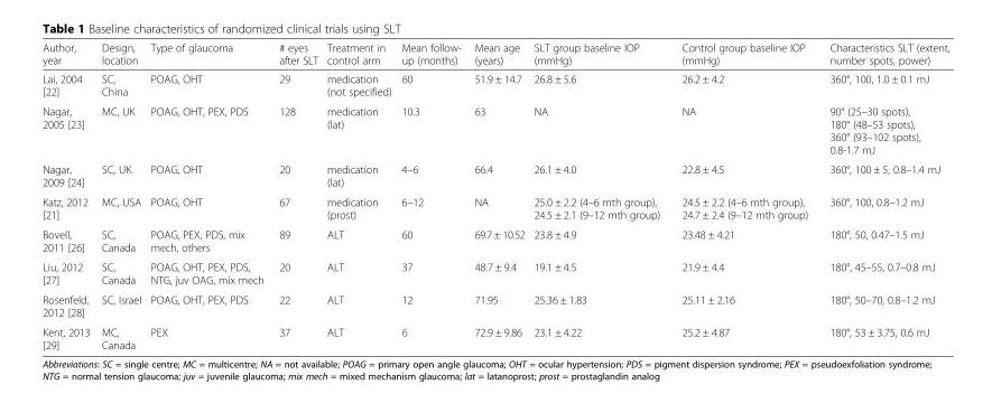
<table><thead><tr><td>Author, year</td><td>Design, location</td><td>Type of glaucoma</td><td># eyes after SLT</td><td>Treatment in control arm</td><td>Mean follow- up (months)</td><td>Mean age (years)</td><td>SLT group baseline IOP (mmHg)</td><td>Control group baseline IOP (mmHg)</td><td>Characteristics SLT (extent, number spots, power)</td></tr></thead><tbody><tr><td>Lai, 2004 [22]</td><td>SC, China</td><td>POAG, OHT</td><td>29</td><td>medication (not specified)</td><td>60</td><td>51.9 ± 14.7</td><td>26.8 ± 5.6</td><td>26.2 ± 4.2</td><td>360°, 100, 1.0 ± 0.1 mJ</td></tr><tr><td>Nagar, 2005 [23]</td><td>MC, UK</td><td>POAG, OHT, PEX, PDS</td><td>128</td><td>medication (lat)</td><td>10.3</td><td>63</td><td>NA</td><td>NA</td><td>90° (25–30 spots), 180° (48–53 spots), 360° (93–102 spots), 0.8-1.7 mJ</td></tr><tr><td>Nagar, 2009 [24]</td><td>SC, UK</td><td>POAG, OHT</td><td>20</td><td>medication (lat)</td><td>4–6</td><td>66.4</td><td>26.1 ± 4.0</td><td>22.8 ± 4.5</td><td>360°, 100 ± 5, 0.8–1.4 mJ</td></tr><tr><td>Katz, 2012 [21]</td><td>MC, USA</td><td>POAG, OHT</td><td>67</td><td>medication (prost)</td><td>6–12</td><td>NA</td><td>25.0 ± 2.2 (4–6 mth group), 24.5 ± 2.1 (9–12 mth group)</td><td>24.5 ± 2.2 (4–6 mth group), 24.7 ± 2.4 (9–12 mth group)</td><td>360°, 100, 0.8–1.2 mJ</td></tr><tr><td>Bovell, 2011 [26]</td><td>SC, Canada</td><td>POAG, PEX, PDS, mix mech, others</td><td>89</td><td>ALT</td><td>60</td><td>69.7 ± 10.52</td><td>23.8 ± 4.9</td><td>23.48 ± 4.21</td><td>180°, 50, 0.47–1.5 mJ</td></tr><tr><td>Liu, 2012 [27]</td><td>SC, Canada</td><td>POAG, OHT, PEX, PDS, NTG, juv OAG, mix mech</td><td>20</td><td>ALT</td><td>37</td><td>48.7 ± 9.4</td><td>19.1 ± 4.5</td><td>21.9 ± 4.4</td><td>180°, 45–55, 0.7–0.8 mJ</td></tr><tr><td>Rosenfeld, 2012 [28]</td><td>SC, Israel</td><td>POAG, OHT, PEX, PDS</td><td>22</td><td>ALT</td><td>12</td><td>71.95</td><td>25.36 ± 1.83</td><td>25.11 ± 2.16</td><td>180°, 50–70, 0.8–1.2 mJ</td></tr><tr><td>Kent, 2013 [29]</td><td>MC, Canada</td><td>PEX</td><td>37</td><td>ALT</td><td>6</td><td>72.9 ± 9.86</td><td>23.1 ± 4.22</td><td>25.2 ± 4.87</td><td>180°, 53 ± 3.75, 0.6 mJ</td></tr></tbody></table>